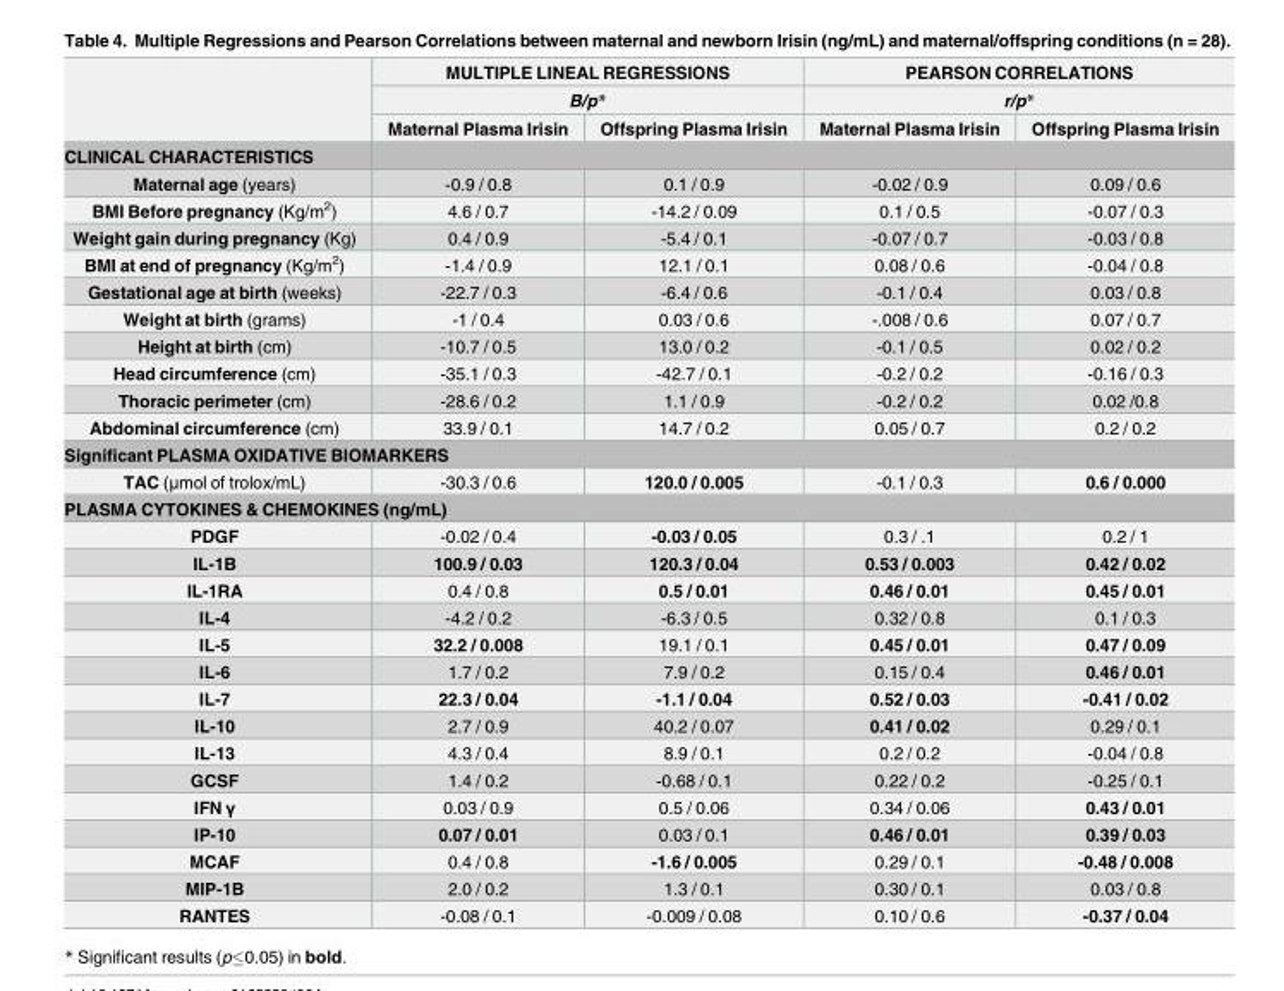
<table><thead><tr><td rowspan="3"></td><td rowspan="2" colspan="2">MULTIPLE LINEAL REGRESSIONS B/p*</td><td rowspan="2" colspan="2">PEARSON CORRELATIONS r/p*</td></tr><tr></tr><tr><td>Maternal Plasma Irisin</td><td>Offspring Plasma Irisin</td><td>Maternal Plasma Irisin</td><td>Offspring Plasma Irisin</td></tr></thead><tbody><tr><td colspan="5">CLINICAL CHARACTERISTICS</td></tr><tr><td>Maternal age (years)</td><td>-0.9 / 0.8</td><td>0.1 / 0.9</td><td>-0.02 / 0.9</td><td>0.09 / 0.6</td></tr><tr><td>BMI Before pregnancy (Kg/m<sup>2</sup>)</td><td>4.6 / 0.7</td><td>-14.2 / 0.09</td><td>0.1 / 0.5</td><td>-0.07 / 0.3</td></tr><tr><td>Weight gain during pregnancy (Kg)</td><td>0.4 / 0.9</td><td>-5.4 / 0.1</td><td>-0.07 / 0.7</td><td>-0.03 / 0.8</td></tr><tr><td>BMI at end of pregnancy (Kg/m<sup>2</sup>)</td><td>-1.4 / 0.9</td><td>12.1 / 0.1</td><td>0.08 / 0.6</td><td>-0.04 / 0.8</td></tr><tr><td>Gestational age at birth (weeks)</td><td>-22.7 / 0.3</td><td>-6.4 / 0.6</td><td>-0.1 / 0.4</td><td>0.03 / 0.8</td></tr><tr><td>Weight at birth (grams)</td><td>-1 / 0.4</td><td>0.03 / 0.6</td><td>-.008 / 0.6</td><td>0.07 / 0.7</td></tr><tr><td>Height at birth (cm)</td><td>-10.7 / 0.5</td><td>13.0 / 0.2</td><td>-0.1 / 0.5</td><td>0.02 / 0.2</td></tr><tr><td>Head circumference (cm)</td><td>-35.1 / 0.3</td><td>-42.7 / 0.1</td><td>-0.2 / 0.2</td><td>-0.16 / 0.3</td></tr><tr><td>Thoracic perimeter (cm)</td><td>-28.6 / 0.2</td><td>1.1 / 0.9</td><td>-0.2 / 0.2</td><td>0.02 /0.8</td></tr><tr><td>Abdominal circumference (cm)</td><td>33.9 / 0.1</td><td>14.7 / 0.2</td><td>0.05 / 0.7</td><td>0.2 / 0.2</td></tr><tr><td colspan="5">Significant PLASMA OXIDATIVE BIOMARKERS</td></tr><tr><td>TAC (μmol of trolox/mL)</td><td>-30.3 / 0.6</td><td>120.0 / 0.005</td><td>-0.1 / 0.3</td><td>0.6 / 0.000</td></tr><tr><td colspan="5">PLASMA CYTOKINES &amp; CHEMOKINES (ng/mL)</td></tr><tr><td>PDGF</td><td>-0.02 / 0.4</td><td>-0.03 / 0.05</td><td>0.3 / .1</td><td>0.2 / 1</td></tr><tr><td>IL-1B</td><td>100.9 / 0.03</td><td>120.3 / 0.04</td><td>0.53 / 0.003</td><td>0.42 / 0.02</td></tr><tr><td>IL-1RA</td><td>0.4 / 0.8</td><td>0.5 / 0.01</td><td>0.46 / 0.01</td><td>0.45 / 0.01</td></tr><tr><td>IL-4</td><td>-4.2 / 0.2</td><td>-6.3 / 0.5</td><td>0.32 / 0.8</td><td>0.1 / 0.3</td></tr><tr><td>IL-5</td><td>32.2 / 0.008</td><td>19.1 / 0.1</td><td>0.45 / 0.01</td><td>0.47 / 0.09</td></tr><tr><td>IL-6</td><td>1.7 / 0.2</td><td>7.9 / 0.2</td><td>0.15 / 0.4</td><td>0.46 / 0.01</td></tr><tr><td>IL-7</td><td>22.3 / 0.04</td><td>-1.1 / 0.04</td><td>0.52 / 0.03</td><td>-0.41 / 0.02</td></tr><tr><td>IL-10</td><td>2.7 / 0.9</td><td>40.2 / 0.07</td><td>0.41 / 0.02</td><td>0.29 / 0.1</td></tr><tr><td>IL-13</td><td>4.3 / 0.4</td><td>8.9 / 0.1</td><td>0.2 / 0.2</td><td>-0.04 / 0.8</td></tr><tr><td>GCSF</td><td>1.4 / 0.2</td><td>-0.68 / 0.1</td><td>0.22 / 0.2</td><td>-0.25 / 0.1</td></tr><tr><td>IFN γ</td><td>0.03 / 0.9</td><td>0.5 / 0.06</td><td>0.34 / 0.06</td><td>0.43 / 0.01</td></tr><tr><td>IP-10</td><td>0.07 / 0.01</td><td>0.03 / 0.1</td><td>0.46 / 0.01</td><td>0.39 / 0.03</td></tr><tr><td>MCAF</td><td>0.4 / 0.8</td><td>-1.6 / 0.005</td><td>0.29 / 0.1</td><td>-0.48 / 0.008</td></tr><tr><td>MIP-1B</td><td>2.0 / 0.2</td><td>1.3 / 0.1</td><td>0.30 / 0.1</td><td>0.03 / 0.8</td></tr><tr><td>RANTES</td><td>-0.08 / 0.1</td><td>-0.009 / 0.08</td><td>0.10 / 0.6</td><td>-0.37 / 0.04</td></tr></tbody></table>